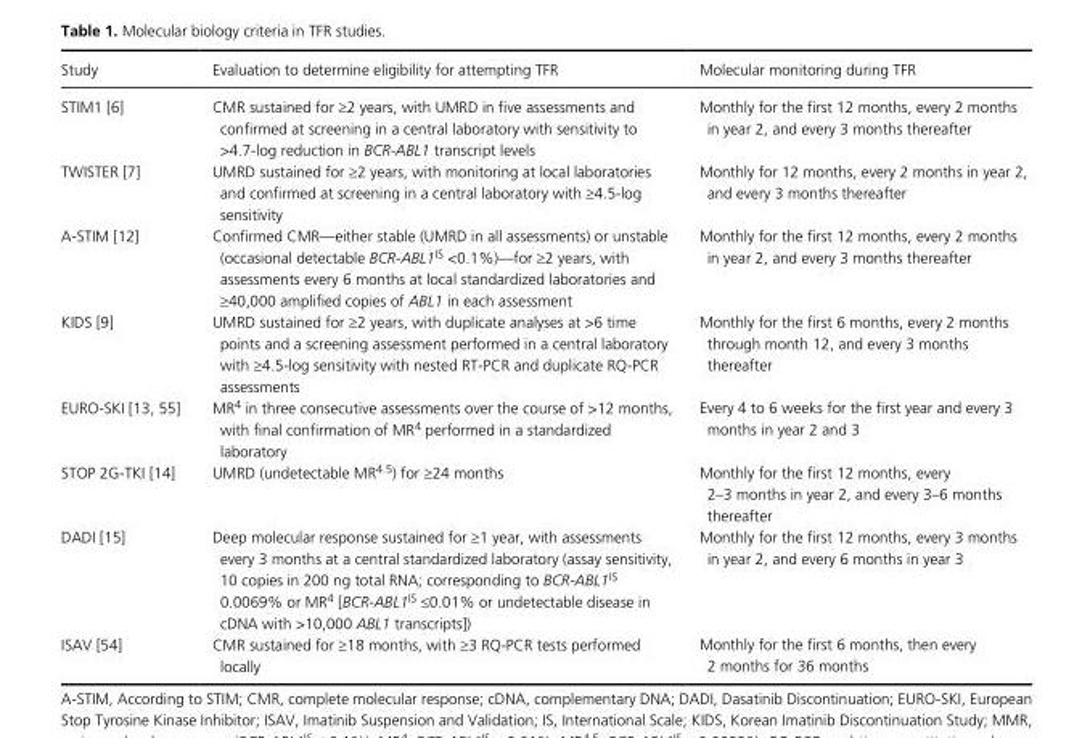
<table><thead><tr><td>Study</td><td>Evaluation to determine eligibility for attempting TFR</td><td>Molecular monitoring during TFR</td></tr></thead><tbody><tr><td>STIM1 [6]</td><td>CMR sustained for ≥2 years, with UMRD in five assessments and confirmed at screening in a central laboratory with sensitivity to &gt;4.7- log reduction in BCR-ABL1 transcript levels</td><td>Monthly for the first 12 months, every 2 months in year 2, and every 3 months thereafter</td></tr><tr><td>TWISTER [7]</td><td>UMRD sustained for ≥2 years, with monitoring at local laboratories and confirmed at screening in a central laboratory with ≥4.5- log sensitivity</td><td>Monthly for 12 months, every 2 months in year 2, and every 3 months thereafter</td></tr><tr><td>A- STIM [12]</td><td>Confirmed CMR—either stable (UMRD in all assessments) or unstable (occasional detectable BCR-ABL1<sup>IS</sup> &lt;0.1%)—for ≥2 years, with assessments every 6 months at local standardized laboratories and ≥40,000 amplified copies of ABL1 in each assessment</td><td>Monthly for the first 12 months, every 2 months in year 2, and every 3 months thereafter</td></tr><tr><td>KIDS [9]</td><td>UMRD sustained for ≥2 years, with duplicate analyses at &gt;6 time points and a screening assessment performed in a central laboratory with ≥4.5- log sensitivity with nested RT- PCR and duplicate RQ- PCR assessments</td><td>Monthly for the first 6 months, every 2 months through month 12, and every 3 months thereafter</td></tr><tr><td>EURO- SKI [13, 55]</td><td>MR<sup>4</sup> in three consecutive assessments over the course of &gt;12 months, with final confirmation of MR<sup>4</sup> performed in a standardized laboratory</td><td>Every 4 to 6 weeks for the first year and every 3 months in year 2 and 3</td></tr><tr><td>STOP 2G- TKI [14]</td><td>UMRD (undetectable MR<sup>4.5</sup>) for ≥24 months</td><td>Monthly for the first 12 months, every 2–3 months in year 2, and every 3–6 months thereafter</td></tr><tr><td>DADI [15]</td><td>Deep molecular response sustained for ≥1 year, with assessments every 3 months at a central standardized laboratory (assay sensitivity, 10 copies in 200 ng total RNA; corresponding to BCR-ABL1<sup>IS</sup> 0.0069% or MR<sup>4</sup> [BCR-ABL1<sup>IS</sup> ≤0.01% or undetectable disease in cDNA with &gt;10,000 ABL1 transcripts])</td><td>Monthly for the first 12 months, every 3 months in year 2, and every 6 months in year 3</td></tr><tr><td>ISAV [54]</td><td>CMR sustained for ≥18 months, with ≥3 RQ- PCR tests performed locally</td><td>Monthly for the first 6 months, then every 2 months for 36 months</td></tr></tbody></table>